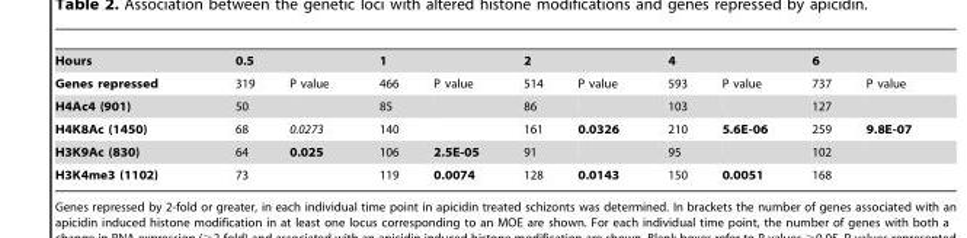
<table><tbody><tr><td>Hours</td><td colspan="2">0.5</td><td colspan="2">1</td><td colspan="2">2</td><td colspan="2">4</td><td colspan="2">6</td></tr><tr><td>Genes repressed</td><td>319</td><td>P value</td><td>466</td><td>P value</td><td>514</td><td>P value</td><td>593</td><td>P value</td><td>737</td><td>P value</td></tr><tr><td>H4Ac4 (901)</td><td>50</td><td></td><td>85</td><td></td><td>86</td><td></td><td>103</td><td></td><td>127</td><td></td></tr><tr><td>H4K8Ac (1450)</td><td>68</td><td>0.0273</td><td>140</td><td></td><td>161</td><td>0.0326</td><td>210</td><td>5.6E-06</td><td>259</td><td>9.8E-07</td></tr><tr><td>H3K9Ac (830)</td><td>64</td><td>0.025</td><td>106</td><td>2.5E-05</td><td>91</td><td></td><td>95</td><td></td><td>102</td><td></td></tr><tr><td>H3K4me3 (1102)</td><td>73</td><td></td><td>119</td><td>0.0074</td><td>128</td><td>0.0143</td><td>150</td><td>0.0051</td><td>168</td><td></td></tr></tbody></table>